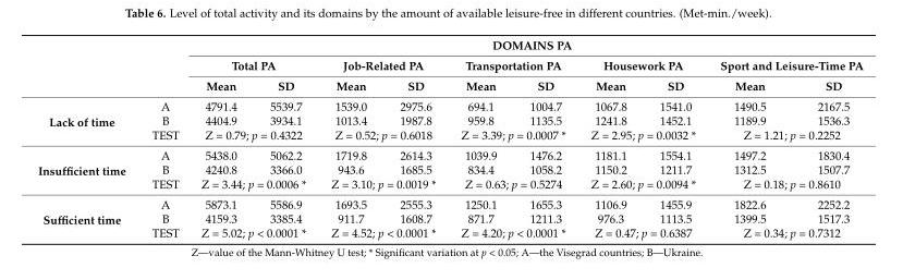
<table><thead><tr><td rowspan="3"></td><td rowspan="3"></td><td colspan="10">DOMAINS PA</td></tr><tr><td colspan="2">Total PA</td><td colspan="2">Job-Related PA</td><td colspan="2">Transportation PA</td><td colspan="2">Housework PA</td><td colspan="2">Sport and Leisure-Time PA</td></tr><tr><td>Mean</td><td>SD</td><td>Mean</td><td>SD</td><td>Mean</td><td>SD</td><td>Mean</td><td>SD</td><td>Mean</td><td>SD</td></tr></thead><tbody><tr><td rowspan="3">Lack of time</td><td>A</td><td>4791.4</td><td>5539.7</td><td>1539.0</td><td>2975.6</td><td>694.1</td><td>1004.7</td><td>1067.8</td><td>1541.0</td><td>1490.5</td><td>2167.5</td></tr><tr><td>B</td><td>4404.9</td><td>3934.1</td><td>1013.4</td><td>1987.8</td><td>959.8</td><td>1135.5</td><td>1241.8</td><td>1452.1</td><td>1189.9</td><td>1536.3</td></tr><tr><td>TEST</td><td colspan="2">Z = 0.79; p = 0.4322</td><td colspan="2">Z = 0.52; p = 0.6018</td><td colspan="2">Z = 3.39; p = 0.0007 *</td><td colspan="2">Z = 2.95; p = 0.0032 *</td><td colspan="2">Z = 1.21; p = 0.2252</td></tr><tr><td rowspan="3">Insufficient time</td><td>A</td><td>5438.0</td><td>5062.2</td><td>1719.8</td><td>2614.3</td><td>1039.9</td><td>1476.2</td><td>1181.1</td><td>1554.1</td><td>1497.2</td><td>1830.4</td></tr><tr><td>B</td><td>4240.8</td><td>3366.0</td><td>943.6</td><td>1685.5</td><td>834.4</td><td>1058.2</td><td>1150.2</td><td>1211.7</td><td>1312.5</td><td>1507.7</td></tr><tr><td>TEST</td><td colspan="2">Z = 3.44; p = 0.0006 *</td><td colspan="2">Z = 3.10; p = 0.0019 *</td><td colspan="2">Z = 0.63; p = 0.5274</td><td colspan="2">Z = 2.60; p = 0.0094 *</td><td colspan="2">Z = 0.18; p = 0.8610</td></tr><tr><td rowspan="3">Sufficient time</td><td>A</td><td>5873.1</td><td>5586.9</td><td>1693.5</td><td>2555.3</td><td>1250.1</td><td>1655.3</td><td>1106.9</td><td>1455.9</td><td>1822.6</td><td>2252.2</td></tr><tr><td>B</td><td>4159.3</td><td>3385.4</td><td>911.7</td><td>1608.7</td><td>871.7</td><td>1211.3</td><td>976.3</td><td>1113.5</td><td>1399.5</td><td>1517.3</td></tr><tr><td>TEST</td><td colspan="2">Z = 5.02; p &lt; 0.0001 *</td><td colspan="2">Z = 4.52; p &lt; 0.0001 *</td><td colspan="2">Z = 4.20; p &lt; 0.0001 *</td><td colspan="2">Z = 0.47; p = 0.6387</td><td colspan="2">Z = 0.34; p = 0.7312</td></tr></tbody></table>